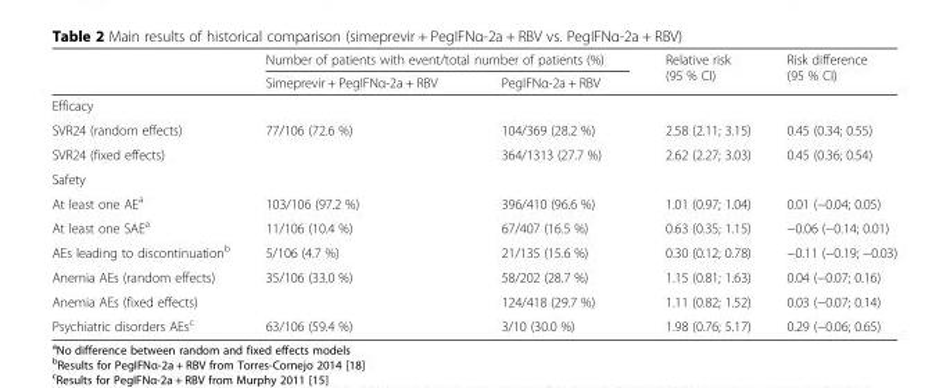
<table><thead><tr><td rowspan="2"></td><td colspan="2">Number of patients with event/total number of patients (%)</td><td rowspan="2">Relative risk (95 % CI)</td><td rowspan="2">Risk difference (95 % CI)</td></tr><tr><td>Simeprevir + PegIFNα-2a + RBV</td><td>PegIFNα-2a + RBV</td></tr></thead><tbody><tr><td colspan="5">Efficacy</td></tr><tr><td>SVR24 (random effects)</td><td rowspan="2">77/106 (72.6 %)</td><td>104/369 (28.2 %)</td><td>2.58 (2.11; 3.15)</td><td>0.45 (0.34; 0.55)</td></tr><tr><td>SVR24 (fixed effects)</td><td>364/1313 (27.7 %)</td><td>2.62 (2.27; 3.03)</td><td>0.45 (0.36; 0.54)</td></tr><tr><td colspan="5">Safety</td></tr><tr><td>At least one AE<sup>a</sup></td><td>103/106 (97.2 %)</td><td>396/410 (96.6 %)</td><td>1.01 (0.97; 1.04)</td><td>0.01 (−0.04; 0.05)</td></tr><tr><td>At least one SAE<sup>a</sup></td><td>11/106 (10.4 %)</td><td>67/407 (16.5 %)</td><td>0.63 (0.35; 1.15)</td><td>−0.06 (−0.14; 0.01)</td></tr><tr><td>AEs leading to discontinuation<sup>b</sup></td><td>5/106 (4.7 %)</td><td>21/135 (15.6 %)</td><td>0.30 (0.12; 0.78)</td><td>−0.11 (−0.19; −0.03)</td></tr><tr><td>Anemia AEs (random effects)</td><td rowspan="2">35/106 (33.0 %)</td><td>58/202 (28.7 %)</td><td>1.15 (0.81; 1.63)</td><td>0.04 (−0.07; 0.16)</td></tr><tr><td>Anemia AEs (fixed effects)</td><td>124/418 (29.7 %)</td><td>1.11 (0.82; 1.52)</td><td>0.03 (−0.07; 0.14)</td></tr><tr><td>Psychiatric disorders AEs<sup>c</sup></td><td>63/106 (59.4 %)</td><td>3/10 (30.0 %)</td><td>1.98 (0.76; 5.17)</td><td>0.29 (−0.06; 0.65)</td></tr></tbody></table>